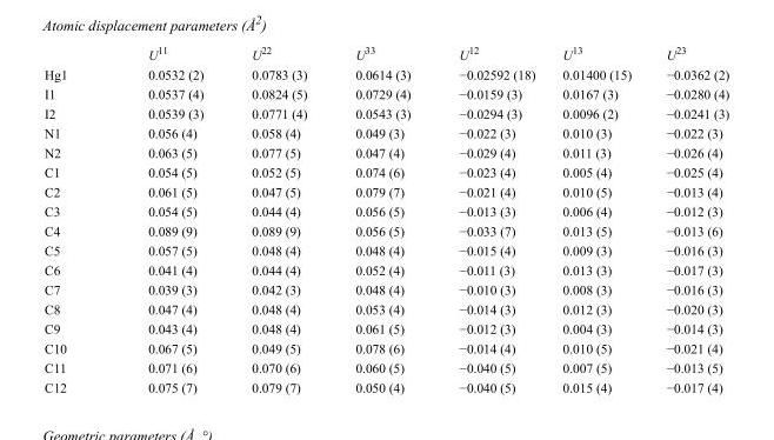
<table><thead><tr><td></td><td>U<sup>11</sup></td><td>U<sup>22</sup></td><td>U<sup>33</sup></td><td>U<sup>12</sup></td><td>U<sup>13</sup></td><td>U<sup>23</sup></td></tr></thead><tbody><tr><td>Hg1</td><td>0.0532 (2)</td><td>0.0783 (3)</td><td>0.0614 (3)</td><td>−0.02592 (18)</td><td>0.01400 (15)</td><td>−0.0362 (2)</td></tr><tr><td>I1</td><td>0.0537 (4)</td><td>0.0824 (5)</td><td>0.0729 (4)</td><td>−0.0159 (3)</td><td>0.0167 (3)</td><td>−0.0280 (4)</td></tr><tr><td>I2</td><td>0.0539 (3)</td><td>0.0771 (4)</td><td>0.0543 (3)</td><td>−0.0294 (3)</td><td>0.0096 (2)</td><td>−0.0241 (3)</td></tr><tr><td>N1</td><td>0.056 (4)</td><td>0.058 (4)</td><td>0.049 (3)</td><td>−0.022 (3)</td><td>0.010 (3)</td><td>−0.022 (3)</td></tr><tr><td>N2</td><td>0.063 (5)</td><td>0.077 (5)</td><td>0.047 (4)</td><td>−0.029 (4)</td><td>0.011 (3)</td><td>−0.026 (4)</td></tr><tr><td>C1</td><td>0.054 (5)</td><td>0.052 (5)</td><td>0.074 (6)</td><td>−0.023 (4)</td><td>0.005 (4)</td><td>−0.025 (4)</td></tr><tr><td>C2</td><td>0.061 (5)</td><td>0.047 (5)</td><td>0.079 (7)</td><td>−0.021 (4)</td><td>0.010 (5)</td><td>−0.013 (4)</td></tr><tr><td>C3</td><td>0.054 (5)</td><td>0.044 (4)</td><td>0.056 (5)</td><td>−0.013 (3)</td><td>0.006 (4)</td><td>−0.012 (3)</td></tr><tr><td>C4</td><td>0.089 (9)</td><td>0.089 (9)</td><td>0.056 (5)</td><td>−0.033 (7)</td><td>0.013 (5)</td><td>−0.013 (6)</td></tr><tr><td>C5</td><td>0.057 (5)</td><td>0.048 (4)</td><td>0.048 (4)</td><td>−0.015 (4)</td><td>0.009 (3)</td><td>−0.016 (3)</td></tr><tr><td>C6</td><td>0.041 (4)</td><td>0.044 (4)</td><td>0.052 (4)</td><td>−0.011 (3)</td><td>0.013 (3)</td><td>−0.017 (3)</td></tr><tr><td>C7</td><td>0.039 (3)</td><td>0.042 (3)</td><td>0.048 (4)</td><td>−0.010 (3)</td><td>0.008 (3)</td><td>−0.016 (3)</td></tr><tr><td>C8</td><td>0.047 (4)</td><td>0.048 (4)</td><td>0.053 (4)</td><td>−0.014 (3)</td><td>0.012 (3)</td><td>−0.020 (3)</td></tr><tr><td>C9</td><td>0.043 (4)</td><td>0.048 (4)</td><td>0.061 (5)</td><td>−0.012 (3)</td><td>0.004 (3)</td><td>−0.014 (3)</td></tr><tr><td>C10</td><td>0.067 (5)</td><td>0.049 (5)</td><td>0.078 (6)</td><td>−0.014 (4)</td><td>0.010 (5)</td><td>−0.021 (4)</td></tr><tr><td>C11</td><td>0.071 (6)</td><td>0.070 (6)</td><td>0.060 (5)</td><td>−0.040 (5)</td><td>0.007 (5)</td><td>−0.013 (5)</td></tr><tr><td>C12</td><td>0.075 (7)</td><td>0.079 (7)</td><td>0.050 (4)</td><td>−0.040 (5)</td><td>0.015 (4)</td><td>−0.017 (4)</td></tr></tbody></table>